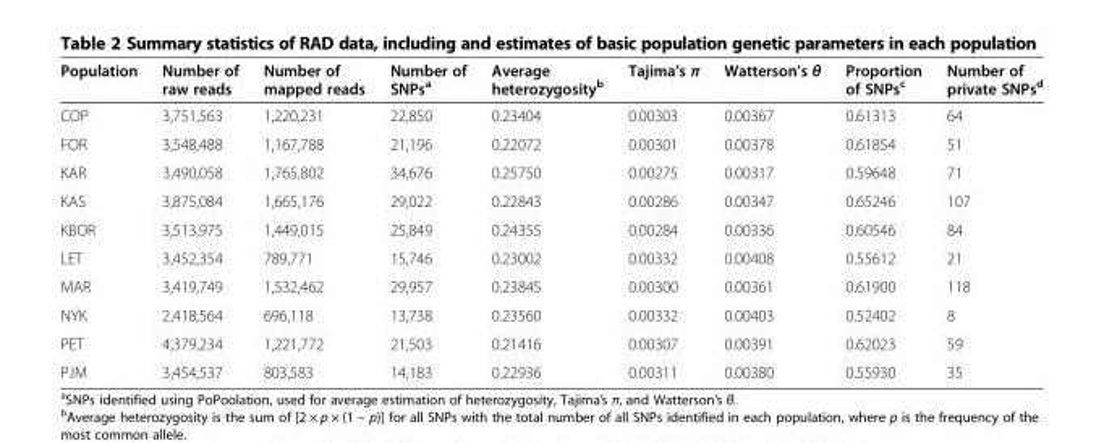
<table><thead><tr><td>Population</td><td>Number of raw reads</td><td>Number of mapped reads</td><td>Number of SNPs<sup>a</sup></td><td>Average heterozygosity<sup>b</sup></td><td>Tajima’s π</td><td>Watterson’s θ</td><td>Proportion of SNPs<sup>c</sup></td><td>Number of private SNPs<sup>d</sup></td></tr></thead><tbody><tr><td>COP</td><td>3,751,563</td><td>1,220,231</td><td>22,850</td><td>0.23404</td><td>0.00303</td><td>0.00367</td><td>0.61313</td><td>64</td></tr><tr><td>FOR</td><td>3,548,488</td><td>1,167,788</td><td>21,196</td><td>0.22072</td><td>0.00301</td><td>0.00378</td><td>0.61854</td><td>51</td></tr><tr><td>KAR</td><td>3,490,058</td><td>1,765,802</td><td>34,676</td><td>0.25750</td><td>0.00275</td><td>0.00317</td><td>0.59648</td><td>71</td></tr><tr><td>KAS</td><td>3,875,084</td><td>1,665,176</td><td>29,022</td><td>0.22843</td><td>0.00286</td><td>0.00347</td><td>0.65246</td><td>107</td></tr><tr><td>KBOR</td><td>3,513,975</td><td>1,449,015</td><td>25,849</td><td>0.24355</td><td>0.00284</td><td>0.00336</td><td>0.60546</td><td>84</td></tr><tr><td>LET</td><td>3,452,354</td><td>789,771</td><td>15,746</td><td>0.23002</td><td>0.00332</td><td>0.00408</td><td>0.55612</td><td>21</td></tr><tr><td>MAR</td><td>3,419,749</td><td>1,532,462</td><td>29,957</td><td>0.23845</td><td>0.00300</td><td>0.00361</td><td>0.61900</td><td>118</td></tr><tr><td>NYK</td><td>2,418,564</td><td>696,118</td><td>13,738</td><td>0.23560</td><td>0.00332</td><td>0.00403</td><td>0.52402</td><td>8</td></tr><tr><td>PET</td><td>4,379,234</td><td>1,221,772</td><td>21,503</td><td>0.21416</td><td>0.00307</td><td>0.00391</td><td>0.62023</td><td>59</td></tr><tr><td>PJM</td><td>3,454,537</td><td>803,583</td><td>14,183</td><td>0.22936</td><td>0.00311</td><td>0.00380</td><td>0.55930</td><td>35</td></tr></tbody></table>